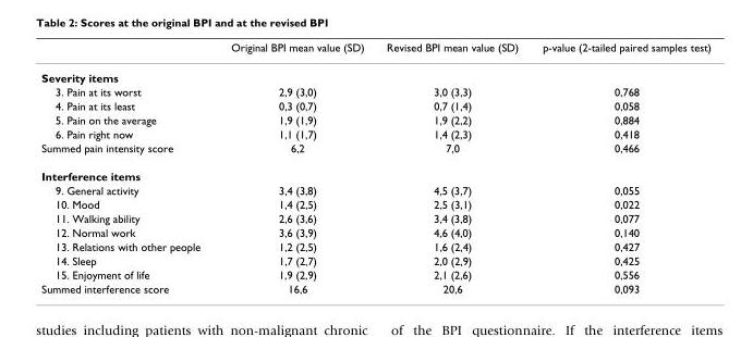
<table><thead><tr><td></td><td>Original BPI mean value (SD)</td><td>Revised BPI mean value (SD)</td><td>p-value (2-tailed paired samples test)</td></tr></thead><tbody><tr><td colspan="4">Severity items</td></tr><tr><td>3. Pain at its worst</td><td>2,9 (3,0)</td><td>3,0 (3,3)</td><td>0,768</td></tr><tr><td>4. Pain at its least</td><td>0,3 (0,7)</td><td>0,7 (1,4)</td><td>0,058</td></tr><tr><td>5. Pain on the average</td><td>1,9 (1,9)</td><td>1,9 (2,2)</td><td>0,884</td></tr><tr><td>6. Pain right now</td><td>1,1 (1,7)</td><td>1,4 (2,3)</td><td>0,418</td></tr><tr><td>Summed pain intensity score</td><td>6,2</td><td>7,0</td><td>0,466</td></tr><tr><td colspan="4">Interference items</td></tr><tr><td>9. General activity</td><td>3,4 (3,8)</td><td>4,5 (3,7)</td><td>0,055</td></tr><tr><td>10. Mood</td><td>1,4 (2,5)</td><td>2,5 (3,1)</td><td>0,022</td></tr><tr><td>11. Walking ability</td><td>2,6 (3,6)</td><td>3,4 (3,8)</td><td>0,077</td></tr><tr><td>12. Normal work</td><td>3,6 (3,9)</td><td>4,6 (4,0)</td><td>0,140</td></tr><tr><td>13. Relations with other people</td><td>1,2 (2,5)</td><td>1,6 (2,4)</td><td>0,427</td></tr><tr><td>14. Sleep</td><td>1,7 (2,7)</td><td>2,0 (2,9)</td><td>0,425</td></tr><tr><td>15. Enjoyment of life</td><td>1,9 (2,9)</td><td>2,1 (2,6)</td><td>0,556</td></tr><tr><td>Summed interference score</td><td>16,6</td><td>20,6</td><td>0,093</td></tr></tbody></table>